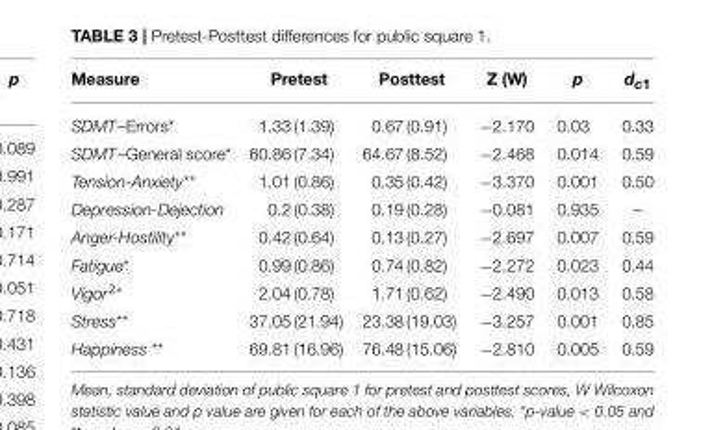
<table><thead><tr><td>Measure</td><td>Pretest</td><td>Posttest</td><td>Z (W)</td><td>p</td><td>d<sub>c1</sub></td></tr></thead><tbody><tr><td>SDMT–Errors*</td><td>1.33 (1.39)</td><td>0.67 (0.91)</td><td>−2.170</td><td>0.03</td><td>0.33</td></tr><tr><td>SDMT–General score*</td><td>60.86 (7.34)</td><td>64.67 (8.52)</td><td>−2.468</td><td>0.014</td><td>0.59</td></tr><tr><td>Tension-Anxiety**</td><td>1.01 (0.86)</td><td>0.35 (0.42)</td><td>−3.370</td><td>0.001</td><td>0.50</td></tr><tr><td>Depression-Dejection</td><td>0.2 (0.38)</td><td>0.19 (0.28)</td><td>−0.081</td><td>0.935</td><td>–</td></tr><tr><td>Anger-Hostility**</td><td>0.42 (0.64)</td><td>0.13 (0.27)</td><td>−2.697</td><td>0.007</td><td>0.59</td></tr><tr><td>Fatigue*</td><td>0.99 (0.86)</td><td>0.74 (0.82)</td><td>−2.272</td><td>0.023</td><td>0.44</td></tr><tr><td>Vigor<sup>2*</sup></td><td>2.04 (0.78)</td><td>1.71 (0.62)</td><td>−2.490</td><td>0.013</td><td>0.58</td></tr><tr><td>Stress**</td><td>37.05 (21.94)</td><td>23.38 (19.03)</td><td>−3.257</td><td>0.001</td><td>0.85</td></tr><tr><td>Happiness **</td><td>69.81 (16.96)</td><td>76.48 (15.06)</td><td>−2.810</td><td>0.005</td><td>0.59</td></tr></tbody></table>